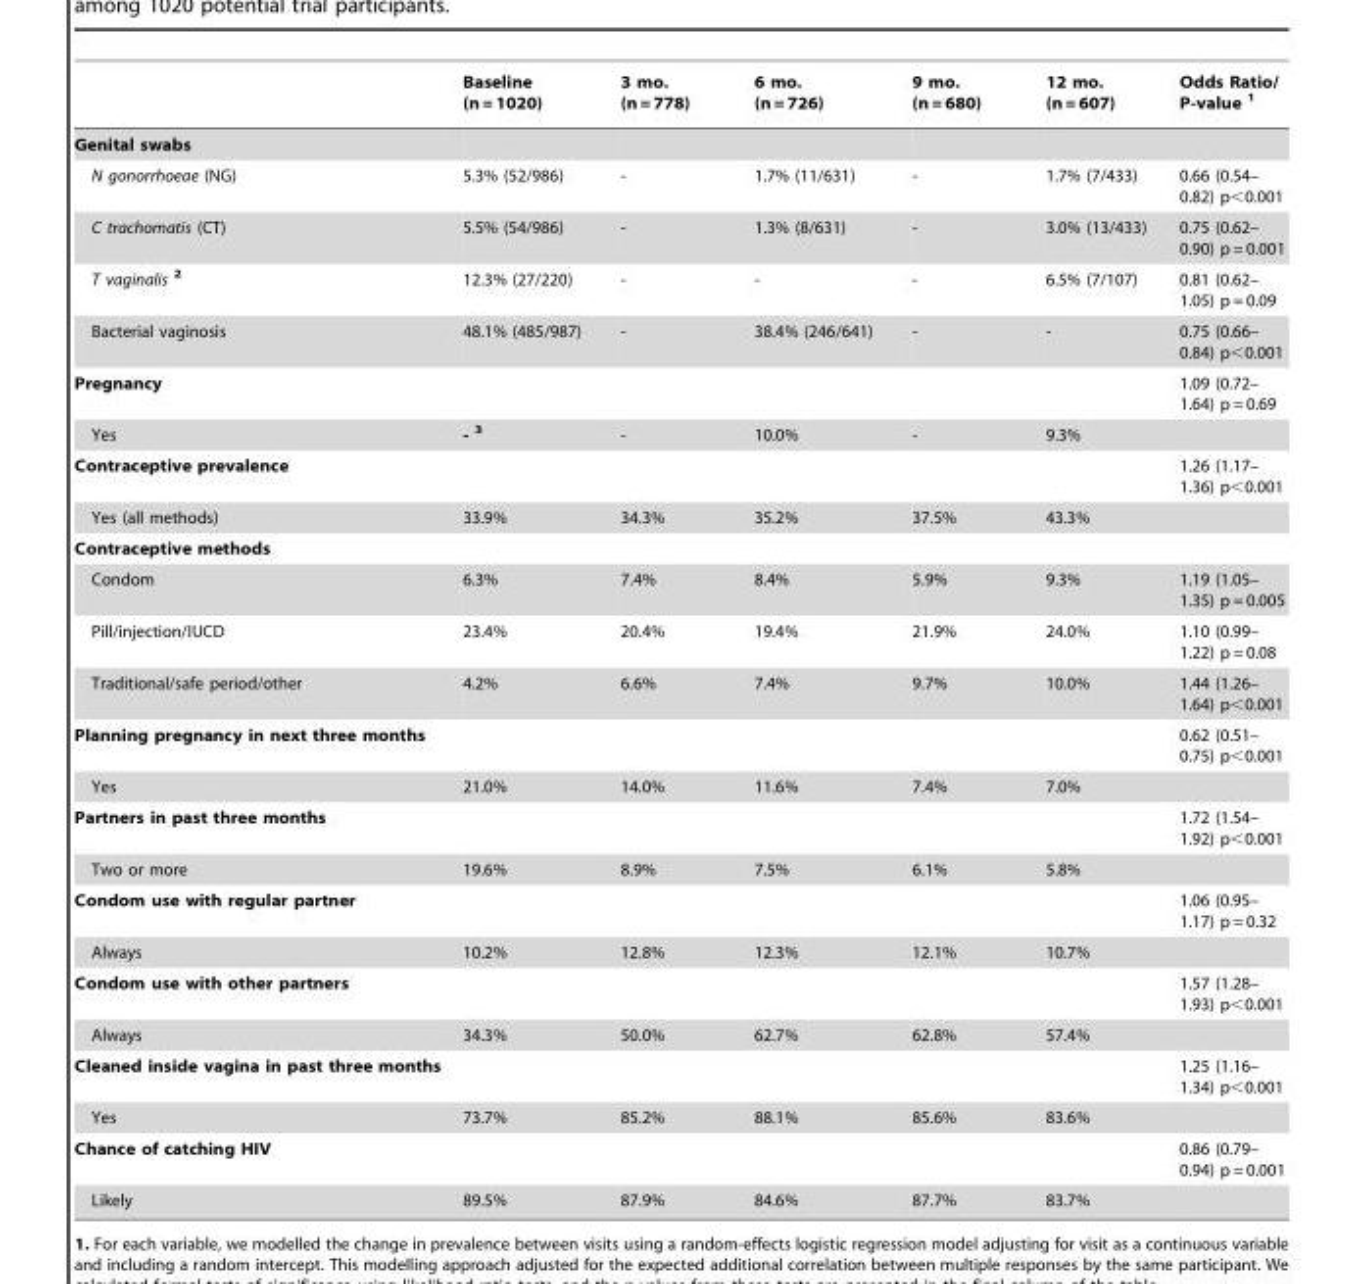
<table><thead><tr><td></td><td>Baseline (n = 1020)</td><td>3 mo. (n = 778)</td><td>6 mo. (n = 726)</td><td>9 mo. (n = 680)</td><td>12 mo. (n = 607)</td><td>Odds Ratio/ P-value 1</td></tr></thead><tbody><tr><td colspan="7">Genital swabs</td></tr><tr><td>N gonorrhoeae (NG)</td><td>5.3% (52/986)</td><td>-</td><td>1.7% (11/631)</td><td>-</td><td>1.7% (7/433)</td><td>0.66 (0.54– 0.82) p&lt;0.001</td></tr><tr><td>C trachomatis (CT)</td><td>5.5% (54/986)</td><td>-</td><td>1.3% (8/631)</td><td>-</td><td>3.0% (13/433)</td><td>0.75 (0.62– 0.90) p = 0.001</td></tr><tr><td>T vaginalis 2</td><td>12.3% (27/220)</td><td>-</td><td>-</td><td>-</td><td>6.5% (7/107)</td><td>0.81 (0.62– 1.05) p = 0.09</td></tr><tr><td>Bacterial vaginosis</td><td>48.1% (485/987)</td><td>-</td><td>38.4% (246/641)</td><td>-</td><td>-</td><td>0.75 (0.66– 0.84) p&lt;0.001</td></tr><tr><td>Pregnancy</td><td></td><td></td><td></td><td></td><td></td><td>1.09 (0.72– 1.64) p = 0.69</td></tr><tr><td>Yes</td><td>- 3</td><td>-</td><td>10.0%</td><td>-</td><td>9.3%</td><td></td></tr><tr><td>Contraceptive prevalence</td><td></td><td></td><td></td><td></td><td></td><td>1.26 (1.17– 1.36) p&lt;0.001</td></tr><tr><td>Yes (all methods)</td><td>33.9%</td><td>34.3%</td><td>35.2%</td><td>37.5%</td><td>43.3%</td><td></td></tr><tr><td colspan="7">Contraceptive methods</td></tr><tr><td>Condom</td><td>6.3%</td><td>7.4%</td><td>8.4%</td><td>5.9%</td><td>9.3%</td><td>1.19 (1.05– 1.35) p = 0.005</td></tr><tr><td>Pill/injection/IUCD</td><td>23.4%</td><td>20.4%</td><td>19.4%</td><td>21.9%</td><td>24.0%</td><td>1.10 (0.99– 1.22) p = 0.08</td></tr><tr><td>Traditional/safe period/other</td><td>4.2%</td><td>6.6%</td><td>7.4%</td><td>9.7%</td><td>10.0%</td><td>1.44 (1.26– 1.64) p&lt;0.001</td></tr><tr><td>Planning pregnancy in next three months</td><td></td><td></td><td></td><td></td><td></td><td>0.62 (0.51– 0.75) p&lt;0.001</td></tr><tr><td>Yes</td><td>21.0%</td><td>14.0%</td><td>11.6%</td><td>7.4%</td><td>7.0%</td><td></td></tr><tr><td>Partners in past three months</td><td></td><td></td><td></td><td></td><td></td><td>1.72 (1.54– 1.92) p&lt;0.001</td></tr><tr><td>Two or more</td><td>19.6%</td><td>8.9%</td><td>7.5%</td><td>6.1%</td><td>5.8%</td><td></td></tr><tr><td>Condom use with regular partner</td><td></td><td></td><td></td><td></td><td></td><td>1.06 (0.95– 1.17) p = 0.32</td></tr><tr><td>Always</td><td>10.2%</td><td>12.8%</td><td>12.3%</td><td>12.1%</td><td>10.7%</td><td></td></tr><tr><td>Condom use with other partners</td><td></td><td></td><td></td><td></td><td></td><td>1.57 (1.28– 1.93) p&lt;0.001</td></tr><tr><td>Always</td><td>34.3%</td><td>50.0%</td><td>62.7%</td><td>62.8%</td><td>57.4%</td><td></td></tr><tr><td>Cleaned inside vagina in past three months</td><td></td><td></td><td></td><td></td><td></td><td>1.25 (1.16– 1.34) p&lt;0.001</td></tr><tr><td>Yes</td><td>73.7%</td><td>85.2%</td><td>88.1%</td><td>85.6%</td><td>83.6%</td><td></td></tr><tr><td>Chance of catching HIV</td><td></td><td></td><td></td><td></td><td></td><td>0.86 (0.79– 0.94) p = 0.001</td></tr><tr><td>Likely</td><td>89.5%</td><td>87.9%</td><td>84.6%</td><td>87.7%</td><td>83.7%</td><td></td></tr></tbody></table>